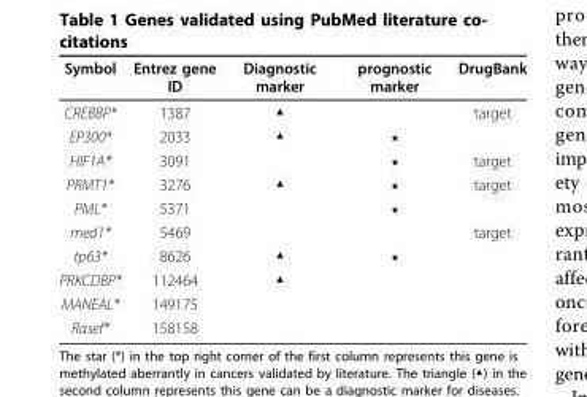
<table><thead><tr><td>Symbol</td><td>Entrez gene ID</td><td>Diagnostic marker</td><td>prognostic marker</td><td>DrugBank</td></tr></thead><tbody><tr><td>CREBBP*</td><td>1387</td><td>▲</td><td></td><td>target</td></tr><tr><td>EP300*</td><td>2033</td><td>▲</td><td>⋆</td><td></td></tr><tr><td>HIF1A*</td><td>3091</td><td></td><td>⋆</td><td>target</td></tr><tr><td>PRMT1*</td><td>3276</td><td>▲</td><td>⋆</td><td>target</td></tr><tr><td>PML*</td><td>5371</td><td></td><td>⋆</td><td></td></tr><tr><td>med1*</td><td>5469</td><td></td><td></td><td>target</td></tr><tr><td>tp63*</td><td>8626</td><td>▲</td><td>⋆</td><td></td></tr><tr><td>PRKCDBP*</td><td>112464</td><td>▲</td><td></td><td></td></tr><tr><td>MANEAL*</td><td>149175</td><td></td><td></td><td></td></tr><tr><td>Rasef*</td><td>158158</td><td></td><td></td><td></td></tr></tbody></table>